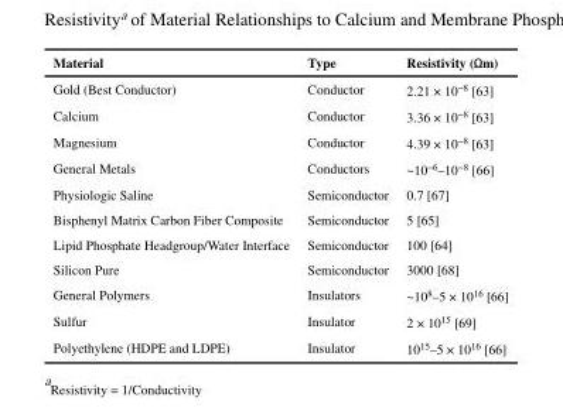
<table><thead><tr><td>Material</td><td>Type</td><td>Resistivity (Ωm)</td></tr></thead><tbody><tr><td>Gold (Best Conductor)</td><td>Conductor</td><td>2.21 × 10<sup>−8</sup> [63]</td></tr><tr><td>Calcium</td><td>Conductor</td><td>3.36 × 10<sup>−8</sup> [63]</td></tr><tr><td>Magnesium</td><td>Conductor</td><td>4.39 × 10<sup>−8</sup> [63]</td></tr><tr><td>General Metals</td><td>Conductors</td><td>~10<sup>−6</sup>–10<sup>−8</sup> [66]</td></tr><tr><td>Physiologic Saline</td><td>Semiconductor</td><td>0.7 [67]</td></tr><tr><td>Bisphenyl Matrix Carbon Fiber Composite</td><td>Semiconductor</td><td>5 [65]</td></tr><tr><td>Lipid Phosphate Headgroup/Water Interface</td><td>Semiconductor</td><td>100 [64]</td></tr><tr><td>Silicon Pure</td><td>Semiconductor</td><td>3000 [68]</td></tr><tr><td>General Polymers</td><td>Insulators</td><td>~10<sup>8</sup>–5 × 10<sup>16</sup> [66]</td></tr><tr><td>Sulfur</td><td>Insulator</td><td>2 × 10<sup>15</sup> [69]</td></tr><tr><td>Polyethylene (HDPE and LDPE)</td><td>Insulator</td><td>10<sup>15</sup>–5 × 10<sup>16</sup> [66]</td></tr></tbody></table>